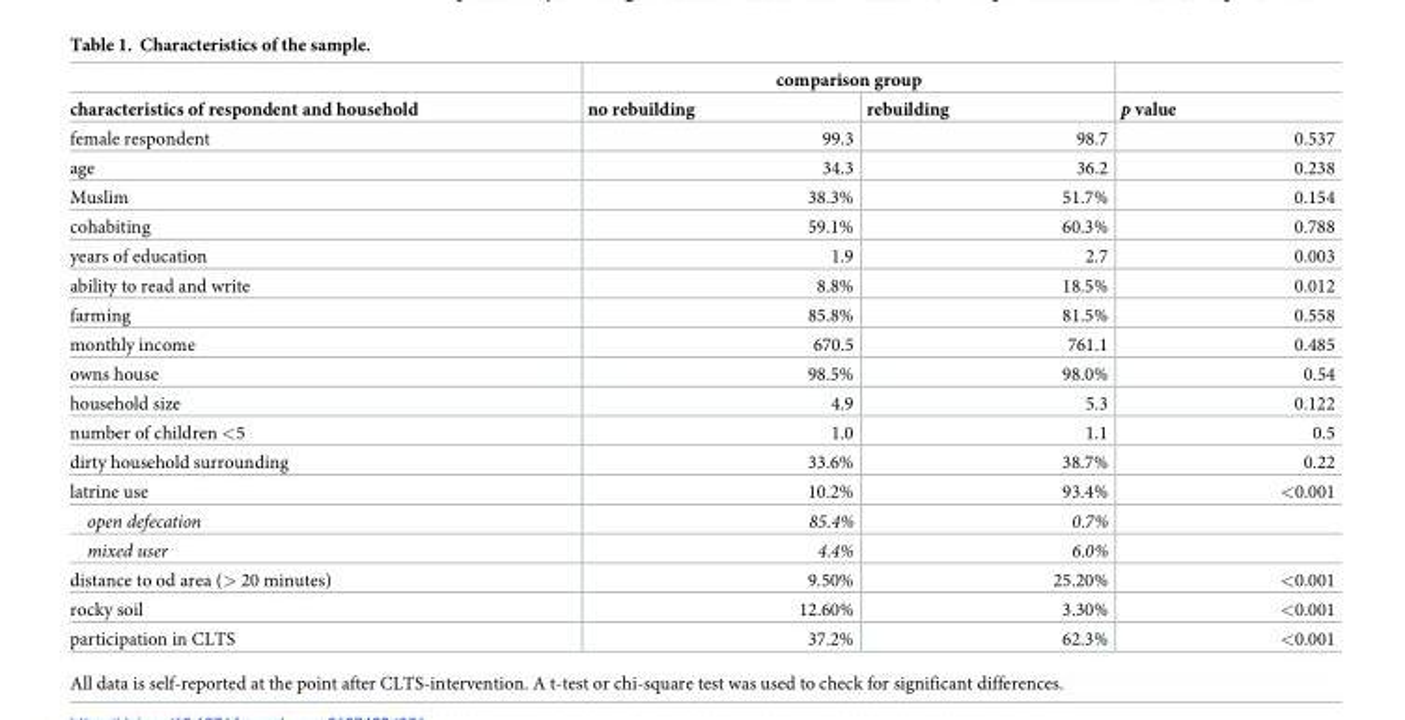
<table><thead><tr><td rowspan="2">characteristics of respondent and household</td><td colspan="2">comparison group</td><td rowspan="2">p value</td></tr><tr><td>no rebuilding</td><td>rebuilding</td></tr></thead><tbody><tr><td>female respondent</td><td>99.3</td><td>98.7</td><td>0.537</td></tr><tr><td>age</td><td>34.3</td><td>36.2</td><td>0.238</td></tr><tr><td>Muslim</td><td>38.3%</td><td>51.7%</td><td>0.154</td></tr><tr><td>cohabiting</td><td>59.1%</td><td>60.3%</td><td>0.788</td></tr><tr><td>years of education</td><td>1.9</td><td>2.7</td><td>0.003</td></tr><tr><td>ability to read and write</td><td>8.8%</td><td>18.5%</td><td>0.012</td></tr><tr><td>farming</td><td>85.8%</td><td>81.5%</td><td>0.558</td></tr><tr><td>monthly income</td><td>670.5</td><td>761.1</td><td>0.485</td></tr><tr><td>owns house</td><td>98.5%</td><td>98.0%</td><td>0.54</td></tr><tr><td>household size</td><td>4.9</td><td>5.3</td><td>0.122</td></tr><tr><td>number of children &lt;5</td><td>1.0</td><td>1.1</td><td>0.5</td></tr><tr><td>dirty household surrounding</td><td>33.6%</td><td>38.7%</td><td>0.22</td></tr><tr><td>latrine use</td><td>10.2%</td><td>93.4%</td><td>&lt;0.001</td></tr><tr><td>open defecation</td><td>85.4%</td><td>0.7%</td><td></td></tr><tr><td>mixed user</td><td>4.4%</td><td>6.0%</td><td></td></tr><tr><td>distance to od area (&gt; 20 minutes)</td><td>9.50%</td><td>25.20%</td><td>&lt;0.001</td></tr><tr><td>rocky soil</td><td>12.60%</td><td>3.30%</td><td>&lt;0.001</td></tr><tr><td>participation in CLTS</td><td>37.2%</td><td>62.3%</td><td>&lt;0.001</td></tr></tbody></table>